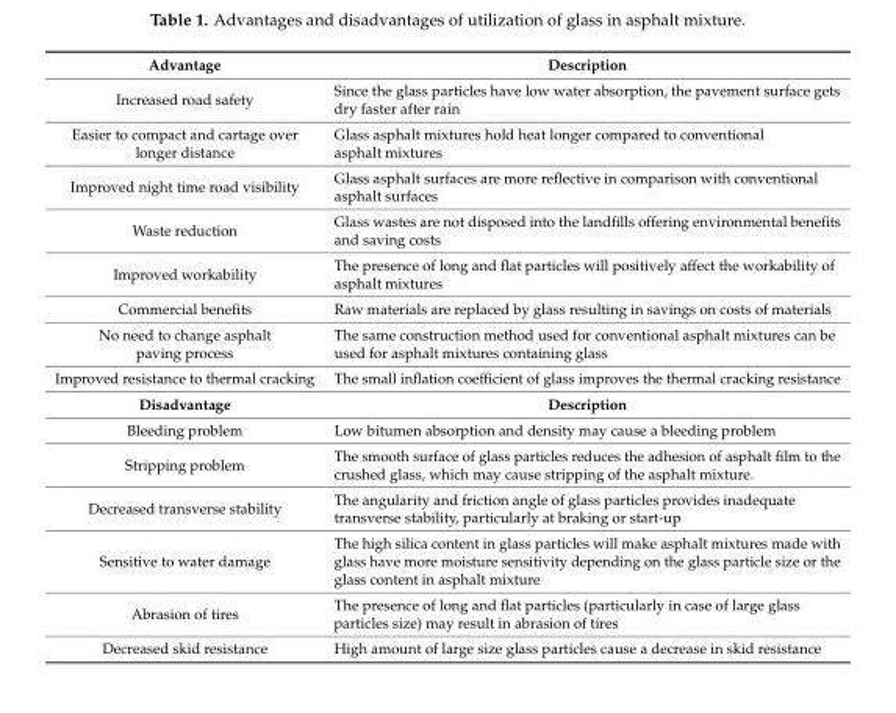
<table><tbody><tr><td>Advantage</td><td>Description</td></tr><tr><td>Increased road safety</td><td>Since the glass particles have low water absorption, the pavement surface gets dry faster after rain</td></tr><tr><td>Easier to compact and cartage over longer distance</td><td>Glass asphalt mixtures hold heat longer compared to conventional asphalt mixtures</td></tr><tr><td>Improved night time road visibility</td><td>Glass asphalt surfaces are more reflective in comparison with conventional asphalt surfaces</td></tr><tr><td>Waste reduction</td><td>Glass wastes are not disposed into the landfills offering environmental benefits and saving costs</td></tr><tr><td>Improved workability</td><td>The presence of long and flat particles will positively affect the workability of asphalt mixtures</td></tr><tr><td>Commercial benefits</td><td>Raw materials are replaced by glass resulting in savings on costs of materials</td></tr><tr><td>No need to change asphalt paving process</td><td>The same construction method used for conventional asphalt mixtures can be used for asphalt mixtures containing glass</td></tr><tr><td>Improved resistance to thermal cracking</td><td>The small inflation coefficient of glass improves the thermal cracking resistance</td></tr><tr><td>Disadvantage</td><td>Description</td></tr><tr><td>Bleeding problem</td><td>Low bitumen absorption and density may cause a bleeding problem</td></tr><tr><td>Stripping problem</td><td>The smooth surface of glass particles reduces the adhesion of asphalt film to the crushed glass, which may cause stripping of the asphalt mixture.</td></tr><tr><td>Decreased transverse stability</td><td>The angularity and friction angle of glass particles provides inadequate transverse stability, particularly at braking or start-up</td></tr><tr><td>Sensitive to water damage</td><td>The high silica content in glass particles will make asphalt mixtures made with glass have more moisture sensitivity depending on the glass particle size or the glass content in asphalt mixture</td></tr><tr><td>Abrasion of tires</td><td>The presence of long and flat particles (particularly in case of large glass particles size) may result in abrasion of tires</td></tr><tr><td>Decreased skid resistance</td><td>High amount of large size glass particles cause a decrease in skid resistance</td></tr></tbody></table>